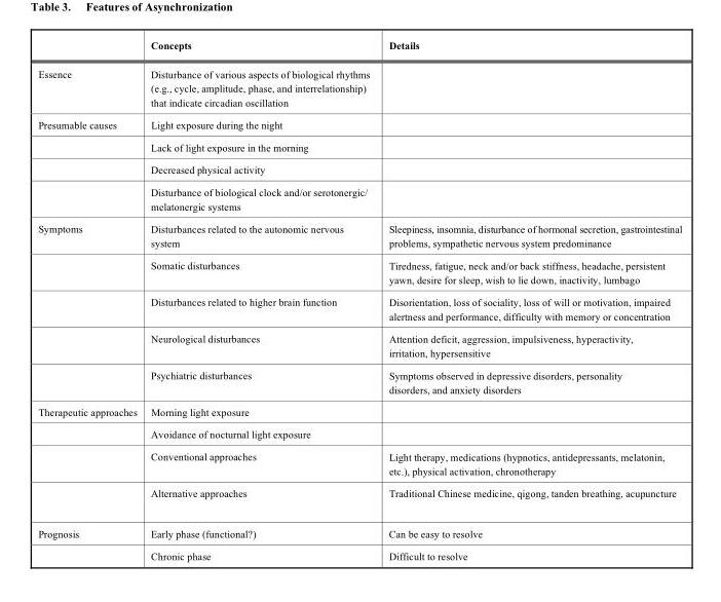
<table><thead><tr><td></td><td>Concepts</td><td>Details</td></tr></thead><tbody><tr><td>Essence</td><td>Disturbance of various aspects of biological rhythms (e.g., cycle, amplitude, phase, and interrelationship) that indicate circadian oscillation</td><td></td></tr><tr><td rowspan="4">Presumable causes</td><td>Light exposure during the night</td><td></td></tr><tr><td>Lack of light exposure in the morning</td><td></td></tr><tr><td>Decreased physical activity</td><td></td></tr><tr><td>Disturbance of biological clock and/or serotonergic/ melatonergic systems</td><td></td></tr><tr><td rowspan="5">Symptoms</td><td>Disturbances related to the autonomic nervous system</td><td>Sleepiness, insomnia, disturbance of hormonal secretion, gastrointestinal problems, sympathetic nervous system predominance</td></tr><tr><td>Somatic disturbances</td><td>Tiredness, fatigue, neck and/or back stiffness, headache, persistent yawn, desire for sleep, wish to lie down, inactivity, lumbago</td></tr><tr><td>Disturbances related to higher brain function</td><td>Disorientation, loss of sociality, loss of will or motivation, impaired alertness and performance, difficulty with memory or concentration</td></tr><tr><td>Neurological disturbances</td><td>Attention deficit, aggression, impulsiveness, hyperactivity, irritation, hypersensitive</td></tr><tr><td>Psychiatric disturbances</td><td>Symptoms observed in depressive disorders, personality disorders, and anxiety disorders</td></tr><tr><td rowspan="4">Therapeutic approaches</td><td>Morning light exposure</td><td></td></tr><tr><td>Avoidance of nocturnal light exposure</td><td></td></tr><tr><td>Conventional approaches</td><td>Light therapy, medications (hypnotics, antidepressants, melatonin, etc.), physical activation, chronotherapy</td></tr><tr><td>Alternative approaches</td><td>Traditional Chinese medicine, qigong, tanden breathing, acupuncture</td></tr><tr><td rowspan="2">Prognosis</td><td>Early phase (functional?)</td><td>Can be easy to resolve</td></tr><tr><td>Chronic phase</td><td>Difficult to resolve</td></tr></tbody></table>